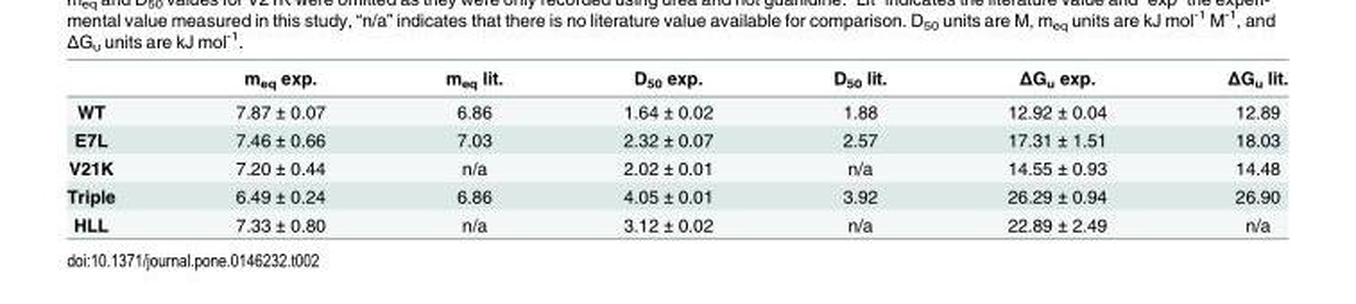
<table><thead><tr><td></td><td>m<sub>eq</sub> exp.</td><td>m<sub>eq</sub> lit.</td><td>D<sub>50</sub> exp.</td><td>D<sub>50</sub> lit.</td><td>ΔG<sub>u</sub> exp.</td><td>ΔG<sub>u</sub> lit.</td></tr></thead><tbody><tr><td>WT</td><td>7.87 ± 0.07</td><td>6.86</td><td>1.64 ± 0.02</td><td>1.88</td><td>12.92 ± 0.04</td><td>12.89</td></tr><tr><td>E7L</td><td>7.46 ± 0.66</td><td>7.03</td><td>2.32 ± 0.07</td><td>2.57</td><td>17.31 ± 1.51</td><td>18.03</td></tr><tr><td>V21K</td><td>7.20 ± 0.44</td><td>n/a</td><td>2.02 ± 0.01</td><td>n/a</td><td>14.55 ± 0.93</td><td>14.48</td></tr><tr><td>Triple</td><td>6.49 ± 0.24</td><td>6.86</td><td>4.05 ± 0.01</td><td>3.92</td><td>26.29 ± 0.94</td><td>26.90</td></tr><tr><td>HLL</td><td>7.33 ± 0.80</td><td>n/a</td><td>3.12 ± 0.02</td><td>n/a</td><td>22.89 ± 2.49</td><td>n/a</td></tr></tbody></table>